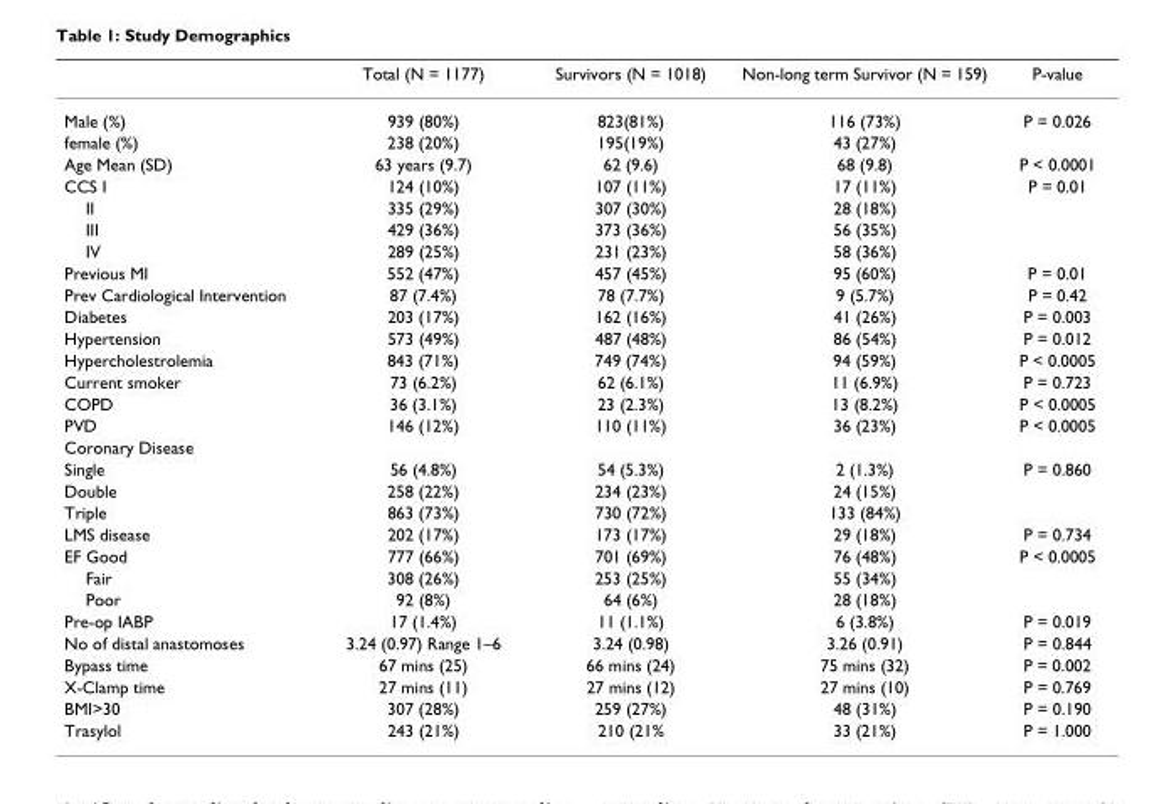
<table><thead><tr><td></td><td>Total (N = 1177)</td><td>Survivors (N = 1018)</td><td>Non-long term Survivor (N = 159)</td><td>P-value</td></tr></thead><tbody><tr><td>Male (%)</td><td>939 (80%)</td><td>823(81%)</td><td>116 (73%)</td><td>P = 0.026</td></tr><tr><td>female (%)</td><td>238 (20%)</td><td>195(19%)</td><td>43 (27%)</td><td></td></tr><tr><td>Age Mean (SD)</td><td>63 years (9.7)</td><td>62 (9.6)</td><td>68 (9.8)</td><td>P &lt; 0.0001</td></tr><tr><td>CCS I</td><td>124 (10%)</td><td>107 (11%)</td><td>17 (11%)</td><td>P = 0.01</td></tr><tr><td>II</td><td>335 (29%)</td><td>307 (30%)</td><td>28 (18%)</td><td></td></tr><tr><td>III</td><td>429 (36%)</td><td>373 (36%)</td><td>56 (35%)</td><td></td></tr><tr><td>IV</td><td>289 (25%)</td><td>231 (23%)</td><td>58 (36%)</td><td></td></tr><tr><td>Previous MI</td><td>552 (47%)</td><td>457 (45%)</td><td>95 (60%)</td><td>P = 0.01</td></tr><tr><td>Prev Cardiological Intervention</td><td>87 (7.4%)</td><td>78 (7.7%)</td><td>9 (5.7%)</td><td>P = 0.42</td></tr><tr><td>Diabetes</td><td>203 (17%)</td><td>162 (16%)</td><td>41 (26%)</td><td>P = 0.003</td></tr><tr><td>Hypertension</td><td>573 (49%)</td><td>487 (48%)</td><td>86 (54%)</td><td>P = 0.012</td></tr><tr><td>Hypercholestrolemia</td><td>843 (71%)</td><td>749 (74%)</td><td>94 (59%)</td><td>P &lt; 0.0005</td></tr><tr><td>Current smoker</td><td>73 (6.2%)</td><td>62 (6.1%)</td><td>11 (6.9%)</td><td>P = 0.723</td></tr><tr><td>COPD</td><td>36 (3.1%)</td><td>23 (2.3%)</td><td>13 (8.2%)</td><td>P &lt; 0.0005</td></tr><tr><td>PVD</td><td>146 (12%)</td><td>110 (11%)</td><td>36 (23%)</td><td>P &lt; 0.0005</td></tr><tr><td colspan="5">Coronary Disease</td></tr><tr><td>Single</td><td>56 (4.8%)</td><td>54 (5.3%)</td><td>2 (1.3%)</td><td>P = 0.860</td></tr><tr><td>Double</td><td>258 (22%)</td><td>234 (23%)</td><td>24 (15%)</td><td></td></tr><tr><td>Triple</td><td>863 (73%)</td><td>730 (72%)</td><td>133 (84%)</td><td></td></tr><tr><td>LMS disease</td><td>202 (17%)</td><td>173 (17%)</td><td>29 (18%)</td><td>P = 0.734</td></tr><tr><td>EF Good</td><td>777 (66%)</td><td>701 (69%)</td><td>76 (48%)</td><td>P &lt; 0.0005</td></tr><tr><td>Fair</td><td>308 (26%)</td><td>253 (25%)</td><td>55 (34%)</td><td></td></tr><tr><td>Poor</td><td>92 (8%)</td><td>64 (6%)</td><td>28 (18%)</td><td></td></tr><tr><td>Pre-op IABP</td><td>17 (1.4%)</td><td>11 (1.1%)</td><td>6 (3.8%)</td><td>P = 0.019</td></tr><tr><td>No of distal anastomoses</td><td>3.24 (0.97) Range 1–6</td><td>3.24 (0.98)</td><td>3.26 (0.91)</td><td>P = 0.844</td></tr><tr><td>Bypass time</td><td>67 mins (25)</td><td>66 mins (24)</td><td>75 mins (32)</td><td>P = 0.002</td></tr><tr><td>X-Clamp time</td><td>27 mins (11)</td><td>27 mins (12)</td><td>27 mins (10)</td><td>P = 0.769</td></tr><tr><td>BMI&gt;30</td><td>307 (28%)</td><td>259 (27%)</td><td>48 (31%)</td><td>P = 0.190</td></tr><tr><td>Trasylol</td><td>243 (21%)</td><td>210 (21%</td><td>33 (21%)</td><td>P = 1.000</td></tr></tbody></table>